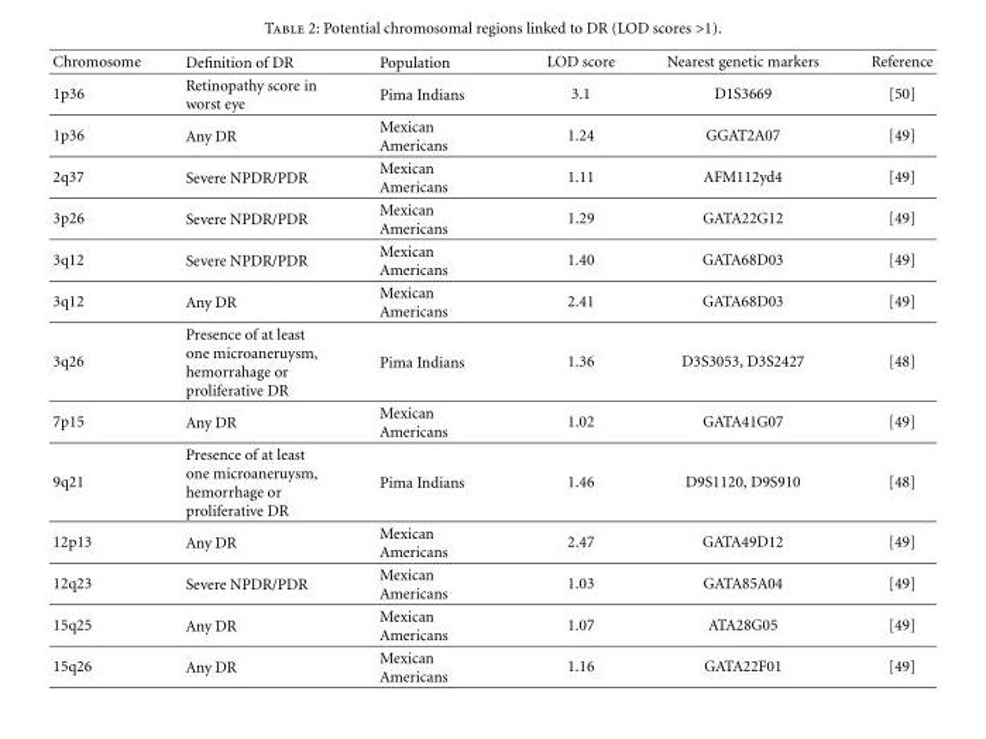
<table><thead><tr><td>Chromosome</td><td>Definition of DR</td><td>Population</td><td>LOD score</td><td>Nearest genetic markers</td><td>Reference</td></tr></thead><tbody><tr><td>1p36</td><td>Retinopathy score in worst eye</td><td>Pima Indians</td><td>3.1</td><td>D1S3669</td><td>[50]</td></tr><tr><td>1p36</td><td>Any DR</td><td>Mexican Americans</td><td>1.24</td><td>GGAT2A07</td><td>[49]</td></tr><tr><td>2q37</td><td>Severe NPDR/PDR</td><td>Mexican Americans</td><td>1.11</td><td>AFM112yd4</td><td>[49]</td></tr><tr><td>3p26</td><td>Severe NPDR/PDR</td><td>Mexican Americans</td><td>1.29</td><td>GATA22G12</td><td>[49]</td></tr><tr><td>3q12</td><td>Severe NPDR/PDR</td><td>Mexican Americans</td><td>1.40</td><td>GATA68D03</td><td>[49]</td></tr><tr><td>3q12</td><td>Any DR</td><td>Mexican Americans</td><td>2.41</td><td>GATA68D03</td><td>[49]</td></tr><tr><td>3q26</td><td>Presence of at least one microaneruysm, hemorrahage or proliferative DR</td><td>Pima Indians</td><td>1.36</td><td>D3S3053, D3S2427</td><td>[48]</td></tr><tr><td>7p15</td><td>Any DR</td><td>Mexican Americans</td><td>1.02</td><td>GATA41G07</td><td>[49]</td></tr><tr><td>9q21</td><td>Presence of at least one microaneruysm, hemorrhage or proliferative DR</td><td>Pima Indians</td><td>1.46</td><td>D9S1120, D9S910</td><td>[48]</td></tr><tr><td>12p13</td><td>Any DR</td><td>Mexican Americans</td><td>2.47</td><td>GATA49D12</td><td>[49]</td></tr><tr><td>12q23</td><td>Severe NPDR/PDR</td><td>Mexican Americans</td><td>1.03</td><td>GATA85A04</td><td>[49]</td></tr><tr><td>15q25</td><td>Any DR</td><td>Mexican Americans</td><td>1.07</td><td>ATA28G05</td><td>[49]</td></tr><tr><td>15q26</td><td>Any DR</td><td>Mexican Americans</td><td>1.16</td><td>GATA22F01</td><td>[49]</td></tr></tbody></table>